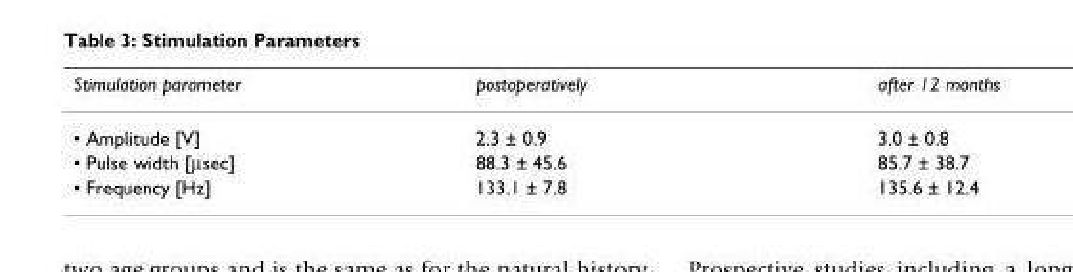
<table><thead><tr><td>Stimulation parameter</td><td>postoperatively</td><td>after 12 months</td></tr></thead><tbody><tr><td>• Amplitude [V]</td><td>2.3 ± 0.9</td><td>3.0 ± 0.8</td></tr><tr><td>• Pulse width [μsec]</td><td>88.3 ± 45.6</td><td>85.7 ± 38.7</td></tr><tr><td>• Frequency [Hz]</td><td>133.1 ± 7.8</td><td>135.6 ± 12.4</td></tr></tbody></table>